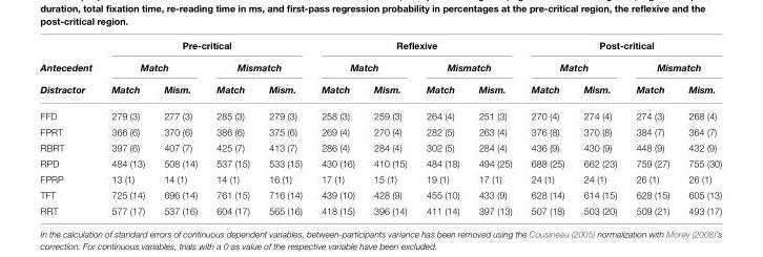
<table><thead><tr><td rowspan="3">Antecedent Distractor</td><td colspan="4">Pre-critical</td><td colspan="4">Reflexive</td><td colspan="4">Post-critical</td></tr><tr><td colspan="2">Match</td><td colspan="2">Mismatch</td><td colspan="2">Match</td><td colspan="2">Mismatch</td><td colspan="2">Match</td><td colspan="2">Mismatch</td></tr><tr><td>Match</td><td>Mism.</td><td>Match</td><td>Mism.</td><td>Match</td><td>Mism.</td><td>Match</td><td>Mism.</td><td>Match</td><td>Mism.</td><td>Match</td><td>Mism.</td></tr></thead><tbody><tr><td>FFD</td><td>279 (3)</td><td>277 (3)</td><td>285 (3)</td><td>279 (3)</td><td>258 (3)</td><td>259 (3)</td><td>264 (4)</td><td>251 (3)</td><td>270 (4)</td><td>274 (4)</td><td>274 (3)</td><td>268 (4)</td></tr><tr><td>FPRT</td><td>366 (6)</td><td>370 (6)</td><td>386 (6)</td><td>375 (6)</td><td>269 (4)</td><td>270 (4)</td><td>282 (5)</td><td>263 (4)</td><td>376 (8)</td><td>370 (8)</td><td>384 (7)</td><td>364 (7)</td></tr><tr><td>RBRT</td><td>397 (6)</td><td>407 (7)</td><td>425 (7)</td><td>413 (7)</td><td>286 (4)</td><td>284 (4)</td><td>302 (5)</td><td>284 (4)</td><td>436 (9)</td><td>430 (9)</td><td>448 (9)</td><td>432 (9)</td></tr><tr><td>RPD</td><td>484 (13)</td><td>508 (14)</td><td>537 (15)</td><td>533 (15)</td><td>430 (16)</td><td>410 (15)</td><td>484 (18)</td><td>494 (25)</td><td>688 (25)</td><td>662 (23)</td><td>759 (27)</td><td>755 (30)</td></tr><tr><td>FPRP</td><td>13 (1)</td><td>14 (1)</td><td>14 (1)</td><td>16 (1)</td><td>17 (1)</td><td>15 (1)</td><td>19 (1)</td><td>17 (1)</td><td>24 (1)</td><td>24 (1)</td><td>26 (1)</td><td>26 (1)</td></tr><tr><td>TFT</td><td>725 (14)</td><td>696 (14)</td><td>761 (15)</td><td>716 (14)</td><td>439 (10)</td><td>428 (9)</td><td>455 (10)</td><td>433 (9)</td><td>628 (14)</td><td>614 (15)</td><td>628 (15)</td><td>605 (13)</td></tr><tr><td>RRT</td><td>577 (17)</td><td>537 (16)</td><td>604 (17)</td><td>565 (16)</td><td>418 (15)</td><td>396 (14)</td><td>411 (14)</td><td>397 (13)</td><td>507 (18)</td><td>503 (20)</td><td>509 (21)</td><td>493 (17)</td></tr></tbody></table>